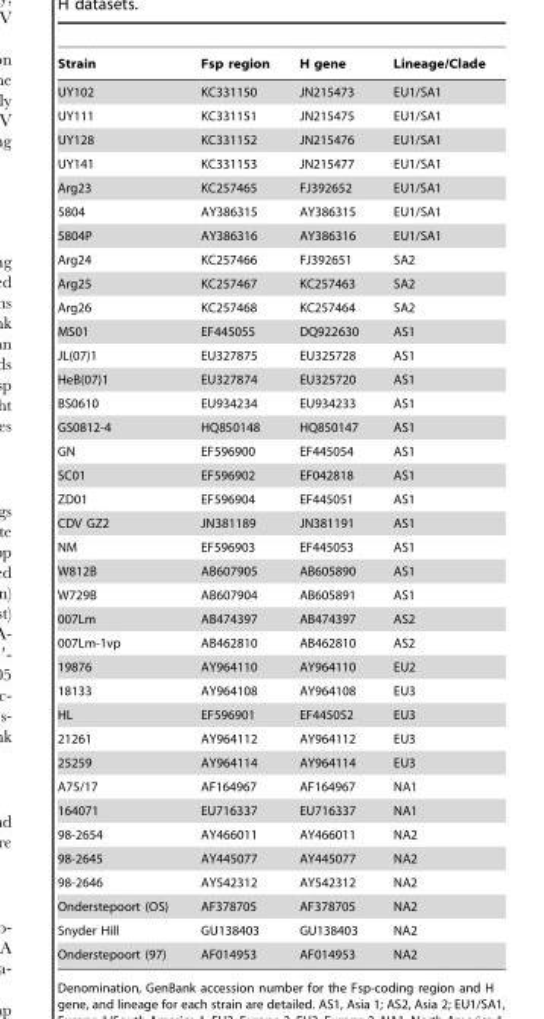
<table><thead><tr><td>Strain</td><td>Fsp region</td><td>H gene</td><td>Lineage/Clade</td></tr></thead><tbody><tr><td>UY102</td><td>KC331150</td><td>JN215473</td><td>EU1/SA1</td></tr><tr><td>UY111</td><td>KC331151</td><td>JN215475</td><td>EU1/SA1</td></tr><tr><td>UY128</td><td>KC331152</td><td>JN215476</td><td>EU1/SA1</td></tr><tr><td>UY141</td><td>KC331153</td><td>JN215477</td><td>EU1/SA1</td></tr><tr><td>Arg23</td><td>KC257465</td><td>FJ392652</td><td>EU1/SA1</td></tr><tr><td>5804</td><td>AY386315</td><td>AY386315</td><td>EU1/SA1</td></tr><tr><td>5804P</td><td>AY386316</td><td>AY386316</td><td>EU1/SA1</td></tr><tr><td>Arg24</td><td>KC257466</td><td>FJ392651</td><td>SA2</td></tr><tr><td>Arg25</td><td>KC257467</td><td>KC257463</td><td>SA2</td></tr><tr><td>Arg26</td><td>KC257468</td><td>KC257464</td><td>SA2</td></tr><tr><td>MS01</td><td>EF445055</td><td>DQ922630</td><td>AS1</td></tr><tr><td>JL(07)1</td><td>EU327875</td><td>EU325728</td><td>AS1</td></tr><tr><td>HeB(07)1</td><td>EU327874</td><td>EU325720</td><td>AS1</td></tr><tr><td>BS0610</td><td>EU934234</td><td>EU934233</td><td>AS1</td></tr><tr><td>GS0812-4</td><td>HQ850148</td><td>HQ850147</td><td>AS1</td></tr><tr><td>GN</td><td>EF596900</td><td>EF445054</td><td>AS1</td></tr><tr><td>SC01</td><td>EF596902</td><td>EF042818</td><td>AS1</td></tr><tr><td>ZD01</td><td>EF596904</td><td>EF445051</td><td>AS1</td></tr><tr><td>CDV GZ2</td><td>JN381189</td><td>JN381191</td><td>AS1</td></tr><tr><td>NM</td><td>EF596903</td><td>EF445053</td><td>AS1</td></tr><tr><td>W812B</td><td>AB607905</td><td>AB605890</td><td>AS1</td></tr><tr><td>W729B</td><td>AB607904</td><td>AB605891</td><td>AS1</td></tr><tr><td>007Lm</td><td>AB474397</td><td>AB474397</td><td>AS2</td></tr><tr><td>007Lm-1vp</td><td>AB462810</td><td>AB462810</td><td>AS2</td></tr><tr><td>19876</td><td>AY964110</td><td>AY964110</td><td>EU2</td></tr><tr><td>18133</td><td>AY964108</td><td>AY964108</td><td>EU3</td></tr><tr><td>HL</td><td>EF596901</td><td>EF445052</td><td>EU3</td></tr><tr><td>21261</td><td>AY964112</td><td>AY964112</td><td>EU3</td></tr><tr><td>25259</td><td>AY964114</td><td>AY964114</td><td>EU3</td></tr><tr><td>A75/17</td><td>AF164967</td><td>AF164967</td><td>NA1</td></tr><tr><td>164071</td><td>EU716337</td><td>EU716337</td><td>NA1</td></tr><tr><td>98-2654</td><td>AY466011</td><td>AY466011</td><td>NA2</td></tr><tr><td>98-2645</td><td>AY445077</td><td>AY445077</td><td>NA2</td></tr><tr><td>98-2646</td><td>AY542312</td><td>AY542312</td><td>NA2</td></tr><tr><td>Onderstepoort (OS)</td><td>AF378705</td><td>AF378705</td><td>NA2</td></tr><tr><td>Snyder Hill</td><td>GU138403</td><td>GU138403</td><td>NA2</td></tr><tr><td>Onderstepoort (97)</td><td>AF014953</td><td>AF014953</td><td>NA2</td></tr></tbody></table>